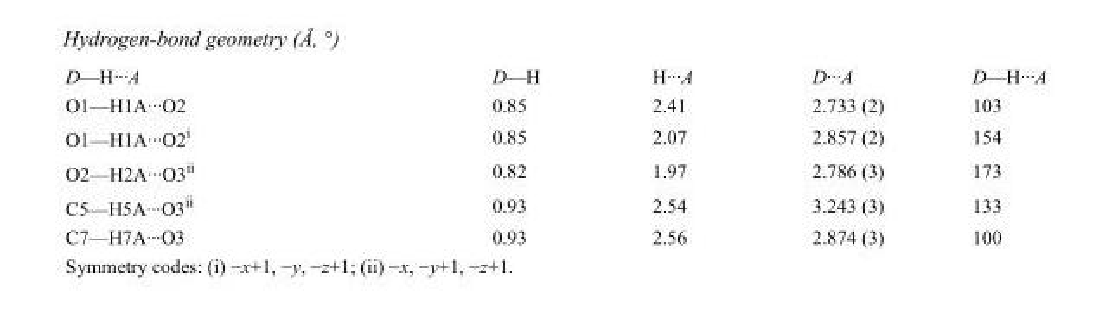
<table><tbody><tr><td>D—H···A</td><td>D—H</td><td>H···A</td><td>D···A</td><td>D—H···A</td></tr><tr><td>O1—H1A···O2</td><td>0.85</td><td>2.41</td><td>2.733 (2)</td><td>103</td></tr><tr><td>O1—H1A···O2<sup>i</sup></td><td>0.85</td><td>2.07</td><td>2.857 (2)</td><td>154</td></tr><tr><td>O2—H2A···O3<sup>ii</sup></td><td>0.82</td><td>1.97</td><td>2.786 (3)</td><td>173</td></tr><tr><td>C5—H5A···O3<sup>ii</sup></td><td>0.93</td><td>2.54</td><td>3.243 (3)</td><td>133</td></tr><tr><td>C7—H7A···O3</td><td>0.93</td><td>2.56</td><td>2.874 (3)</td><td>100</td></tr></tbody></table>